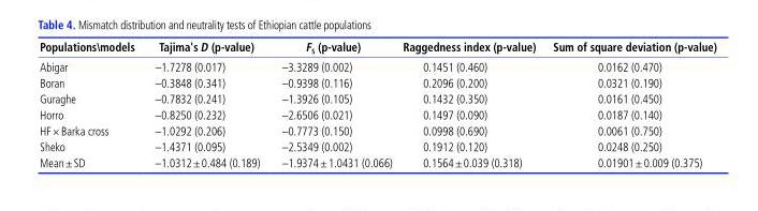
<table><thead><tr><td>Populations\models</td><td>Tajima&#x27;s D (p-value)</td><td>F<sub>S</sub> (p-value)</td><td>Raggedness index (p-value)</td><td>Sum of square deviation (p-value)</td></tr></thead><tbody><tr><td>Abigar</td><td>–1.7278 (0.017)</td><td>–3.3289 (0.002)</td><td>0.1451 (0.460)</td><td>0.0162 (0.470)</td></tr><tr><td>Boran</td><td>–0.3848 (0.341)</td><td>–0.9398 (0.116)</td><td>0.2096 (0.200)</td><td>0.0321 (0.190)</td></tr><tr><td>Guraghe</td><td>–0.7832 (0.241)</td><td>–1.3926 (0.105)</td><td>0.1432 (0.350)</td><td>0.0161 (0.450)</td></tr><tr><td>Horro</td><td>–0.8250 (0.232)</td><td>–2.6506 (0.021)</td><td>0.1497 (0.090)</td><td>0.0187 (0.140)</td></tr><tr><td>HF×Barka cross</td><td>–1.0292 (0.206)</td><td>–0.7773 (0.150)</td><td>0.0998 (0.690)</td><td>0.0061 (0.750)</td></tr><tr><td>Sheko</td><td>–1.4371 (0.095)</td><td>–2.5349 (0.002)</td><td>0.1912 (0.120)</td><td>0.0248 (0.250)</td></tr><tr><td>Mean±SD</td><td>–1.0312±0.484 (0.189)</td><td>–1.9374±1.0431 (0.066)</td><td>0.1564±0.039 (0.318)</td><td>0.01901±0.009 (0.375)</td></tr></tbody></table>